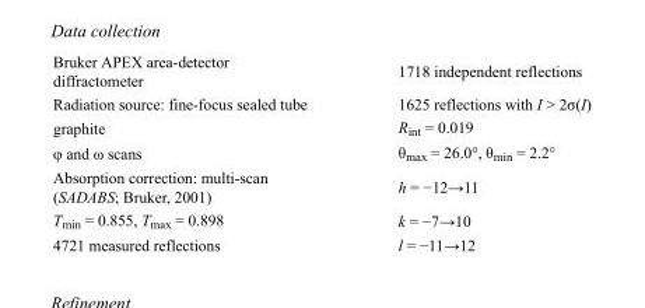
<table><tbody><tr><td>Bruker APEX area-detector diffractometer</td><td>1718 independent reflections</td></tr><tr><td>Radiation source: fine-focus sealed tube</td><td>1625 reflections with I &gt; 2σ(I)</td></tr><tr><td>graphite</td><td>R<sub>int</sub> = 0.019</td></tr><tr><td>φ and ω scans</td><td>θ<sub>max</sub> = 26.0°, θ<sub>min</sub> = 2.2°</td></tr><tr><td>Absorption correction: multi-scan (SADABS; Bruker, 2001)</td><td>h = −12→11</td></tr><tr><td>T<sub>min</sub> = 0.855, T<sub>max</sub> = 0.898</td><td>k = −7→10</td></tr><tr><td>4721 measured reflections</td><td>l = −11→12</td></tr></tbody></table>